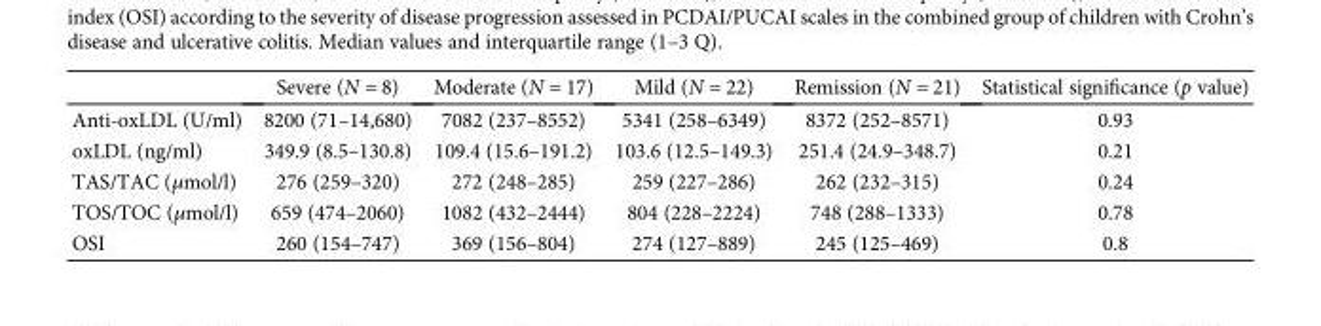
<table><thead><tr><td></td><td>Severe (N = 8)</td><td>Moderate (N = 17)</td><td>Mild (N = 22)</td><td>Remission (N = 21)</td><td>Statistical significance (p value)</td></tr></thead><tbody><tr><td>Anti-oxLDL (U/ml)</td><td>8200 (71–14,680)</td><td>7082 (237–8552)</td><td>5341 (258–6349)</td><td>8372 (252–8571)</td><td>0.93</td></tr><tr><td>oxLDL (ng/ml)</td><td>349.9 (8.5–130.8)</td><td>109.4 (15.6–191.2)</td><td>103.6 (12.5–149.3)</td><td>251.4 (24.9–348.7)</td><td>0.21</td></tr><tr><td>TAS/TAC (μmol/l)</td><td>276 (259–320)</td><td>272 (248–285)</td><td>259 (227–286)</td><td>262 (232–315)</td><td>0.24</td></tr><tr><td>TOS/TOC (μmol/l)</td><td>659 (474–2060)</td><td>1082 (432–2444)</td><td>804 (228–2224)</td><td>748 (288–1333)</td><td>0.78</td></tr><tr><td>OSI</td><td>260 (154–747)</td><td>369 (156–804)</td><td>274 (127–889)</td><td>245 (125–469)</td><td>0.8</td></tr></tbody></table>